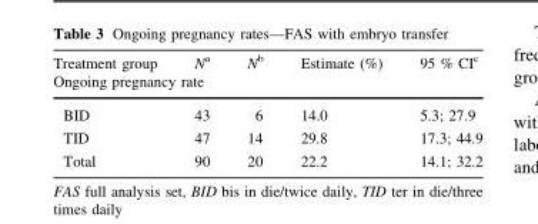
<table><thead><tr><td>Treatment group</td><td>N<sup>a</sup></td><td>N<sup>b</sup></td><td>Estimate (%)</td><td>95 % CI<sup>c</sup></td></tr><tr><td colspan="5">Ongoing pregnancy rate</td></tr></thead><tbody><tr><td>BID</td><td>43</td><td>6</td><td>14.0</td><td>5.3; 27.9</td></tr><tr><td>TID</td><td>47</td><td>14</td><td>29.8</td><td>17.3; 44.9</td></tr><tr><td>Total</td><td>90</td><td>20</td><td>22.2</td><td>14.1; 32.2</td></tr></tbody></table>